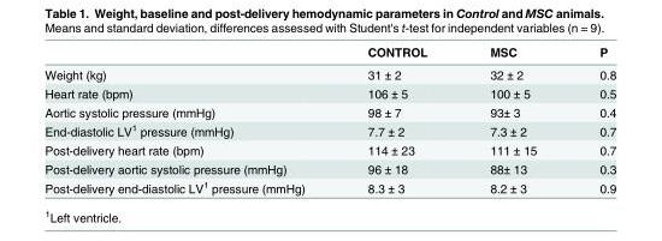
<table><thead><tr><td></td><td>CONTROL</td><td>MSC</td><td>P</td></tr></thead><tbody><tr><td>Weight (kg)</td><td>31 ± 2</td><td>32 ± 2</td><td>0.8</td></tr><tr><td>Heart rate (bpm)</td><td>106 ± 5</td><td>100 ± 5</td><td>0.5</td></tr><tr><td>Aortic systolic pressure (mmHg)</td><td>98 ± 7</td><td>93± 3</td><td>0.4</td></tr><tr><td>End-diastolic LV<sup>1</sup> pressure (mmHg)</td><td>7.7 ± 2</td><td>7.3 ± 2</td><td>0.7</td></tr><tr><td>Post-delivery heart rate (bpm)</td><td>114 ± 23</td><td>111 ± 15</td><td>0.7</td></tr><tr><td>Post-delivery aortic systolic pressure (mmHg)</td><td>96 ± 18</td><td>88± 13</td><td>0.3</td></tr><tr><td>Post-delivery end-diastolic LV<sup>1</sup> pressure (mmHg)</td><td>8.3 ± 3</td><td>8.2 ± 3</td><td>0.9</td></tr></tbody></table>